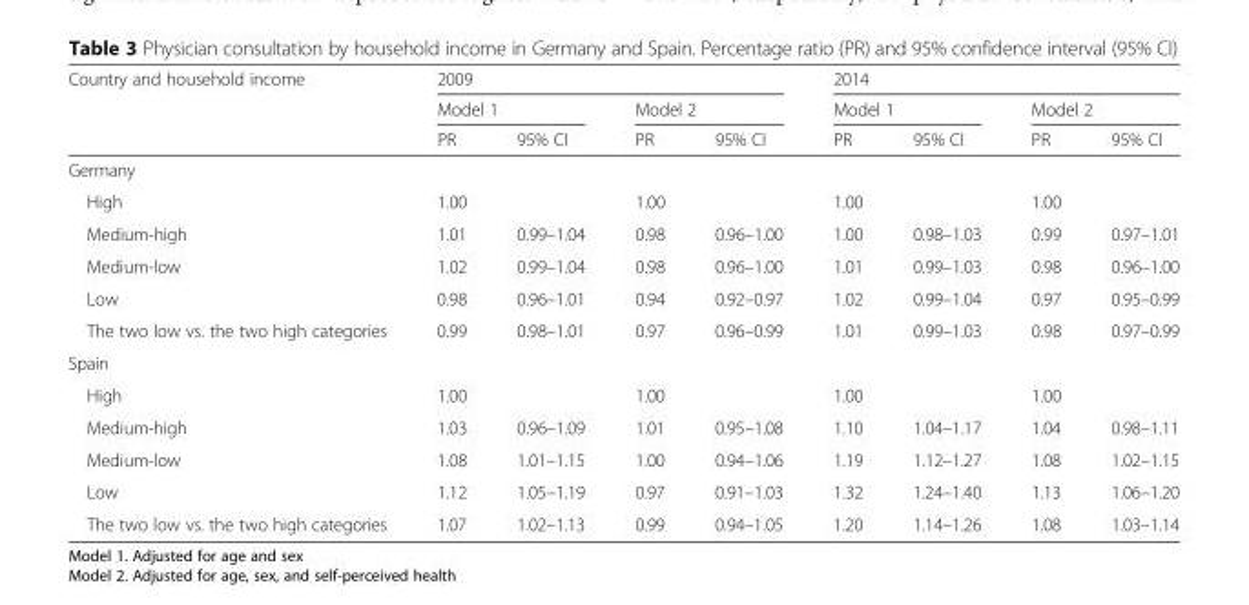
<table><thead><tr><td rowspan="3">Country and household income</td><td colspan="4">2009</td><td colspan="4">2014</td></tr><tr><td colspan="2">Model 1</td><td colspan="2">Model 2</td><td colspan="2">Model 1</td><td colspan="2">Model 2</td></tr><tr><td>PR</td><td>95% CI</td><td>PR</td><td>95% CI</td><td>PR</td><td>95% CI</td><td>PR</td><td>95% CI</td></tr></thead><tbody><tr><td colspan="9">Germany</td></tr><tr><td>High</td><td>1.00</td><td></td><td>1.00</td><td></td><td>1.00</td><td></td><td>1.00</td><td></td></tr><tr><td>Medium-high</td><td>1.01</td><td>0.99–1.04</td><td>0.98</td><td>0.96–1.00</td><td>1.00</td><td>0.98–1.03</td><td>0.99</td><td>0.97–1.01</td></tr><tr><td>Medium-low</td><td>1.02</td><td>0.99–1.04</td><td>0.98</td><td>0.96–1.00</td><td>1.01</td><td>0.99–1.03</td><td>0.98</td><td>0.96–1.00</td></tr><tr><td>Low</td><td>0.98</td><td>0.96–1.01</td><td>0.94</td><td>0.92–0.97</td><td>1.02</td><td>0.99–1.04</td><td>0.97</td><td>0.95–0.99</td></tr><tr><td>The two low vs. the two high categories</td><td>0.99</td><td>0.98–1.01</td><td>0.97</td><td>0.96–0.99</td><td>1.01</td><td>0.99–1.03</td><td>0.98</td><td>0.97–0.99</td></tr><tr><td colspan="9">Spain</td></tr><tr><td>High</td><td>1.00</td><td></td><td>1.00</td><td></td><td>1.00</td><td></td><td>1.00</td><td></td></tr><tr><td>Medium-high</td><td>1.03</td><td>0.96–1.09</td><td>1.01</td><td>0.95–1.08</td><td>1.10</td><td>1.04–1.17</td><td>1.04</td><td>0.98–1.11</td></tr><tr><td>Medium-low</td><td>1.08</td><td>1.01–1.15</td><td>1.00</td><td>0.94–1.06</td><td>1.19</td><td>1.12–1.27</td><td>1.08</td><td>1.02–1.15</td></tr><tr><td>Low</td><td>1.12</td><td>1.05–1.19</td><td>0.97</td><td>0.91–1.03</td><td>1.32</td><td>1.24–1.40</td><td>1.13</td><td>1.06–1.20</td></tr><tr><td>The two low vs. the two high categories</td><td>1.07</td><td>1.02–1.13</td><td>0.99</td><td>0.94–1.05</td><td>1.20</td><td>1.14–1.26</td><td>1.08</td><td>1.03–1.14</td></tr></tbody></table>